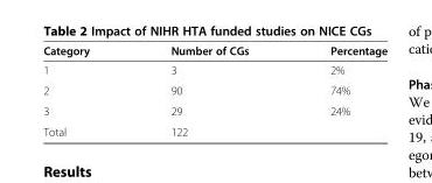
<table><thead><tr><td>Category</td><td>Number of CGs</td><td>Percentage</td></tr></thead><tbody><tr><td>1</td><td>3</td><td>2%</td></tr><tr><td>2</td><td>90</td><td>74%</td></tr><tr><td>3</td><td>29</td><td>24%</td></tr><tr><td>Total</td><td>122</td><td></td></tr></tbody></table>